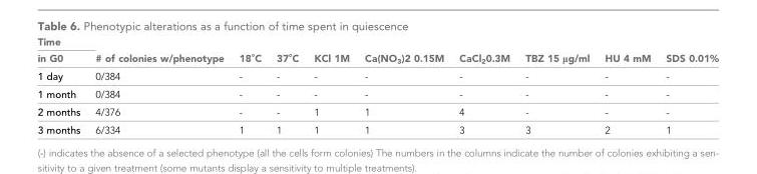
<table><thead><tr><td rowspan="2">Time in G0</td><td rowspan="2"># of colonies w/phenotype</td><td rowspan="2">18˚C</td><td rowspan="2">37˚C</td><td rowspan="2">KCl 1M</td><td rowspan="2">Ca(NO<sub>3</sub>)2 0.15M</td><td rowspan="2">CaCl<sub>2</sub>0.3M</td><td rowspan="2">TBZ 15 μg/ml</td><td rowspan="2">HU 4 mM</td><td rowspan="2">SDS 0.01%</td></tr><tr></tr></thead><tbody><tr><td>1 day</td><td>0/384</td><td>-</td><td>-</td><td>-</td><td>-</td><td>-</td><td>-</td><td>-</td><td>-</td></tr><tr><td>1 month</td><td>0/384</td><td>-</td><td>-</td><td>-</td><td>-</td><td>-</td><td>-</td><td>-</td><td>-</td></tr><tr><td>2 months</td><td>4/376</td><td>-</td><td>-</td><td>1</td><td>1</td><td>4</td><td>-</td><td>-</td><td>-</td></tr><tr><td>3 months</td><td>6/334</td><td>1</td><td>1</td><td>1</td><td>1</td><td>3</td><td>3</td><td>2</td><td>1</td></tr></tbody></table>